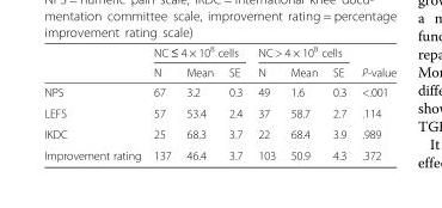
<table><thead><tr><td rowspan="2"></td><td colspan="3">NC ≤ 4 × 10<sup>8</sup> cells</td><td colspan="3">NC &gt; 4 × 10<sup>8</sup> cells</td><td rowspan="2">P-value</td></tr><tr><td>N</td><td>Mean</td><td>SE</td><td>N</td><td>Mean</td><td>SE</td></tr></thead><tbody><tr><td>NPS</td><td>67</td><td>3.2</td><td>0.3</td><td>49</td><td>1.6</td><td>0.3</td><td>&lt;.001</td></tr><tr><td>LEFS</td><td>57</td><td>53.4</td><td>2.4</td><td>37</td><td>58.7</td><td>2.7</td><td>.114</td></tr><tr><td>IKDC</td><td>25</td><td>68.3</td><td>3.7</td><td>22</td><td>68.4</td><td>3.9</td><td>.989</td></tr><tr><td>Improvement rating</td><td>137</td><td>46.4</td><td>3.7</td><td>103</td><td>50.9</td><td>4.3</td><td>.372</td></tr></tbody></table>